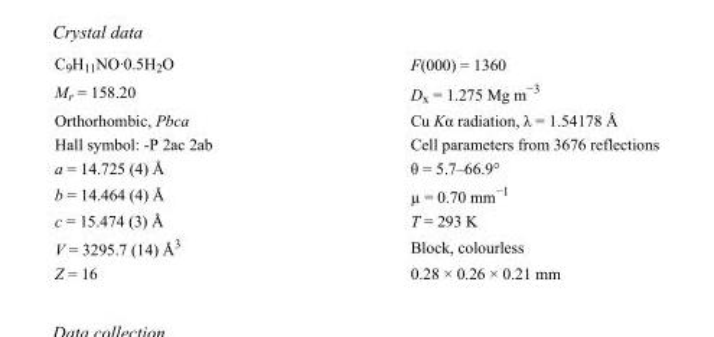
<table><tbody><tr><td>C<sub>9</sub>H<sub>11</sub>NO·0.5H<sub>2</sub>O</td><td>F(000) = 1360</td></tr><tr><td>M<sub>r</sub> = 158.20</td><td>D<sub>x</sub> = 1.275 Mg m<sup>−3</sup></td></tr><tr><td>Orthorhombic, Pbca</td><td>Cu Kα radiation, λ = 1.54178 Å</td></tr><tr><td>Hall symbol: -P 2ac 2ab</td><td>Cell parameters from 3676 reflections</td></tr><tr><td>a = 14.725 (4) Å</td><td>θ = 5.7–66.9°</td></tr><tr><td>b = 14.464 (4) Å</td><td>µ = 0.70 mm<sup>−1</sup></td></tr><tr><td>c = 15.474 (3) Å</td><td>T = 293 K</td></tr><tr><td>V = 3295.7 (14) Å<sup>3</sup></td><td>Block, colourless</td></tr><tr><td>Z = 16</td><td>0.28 × 0.26 × 0.21 mm</td></tr></tbody></table>